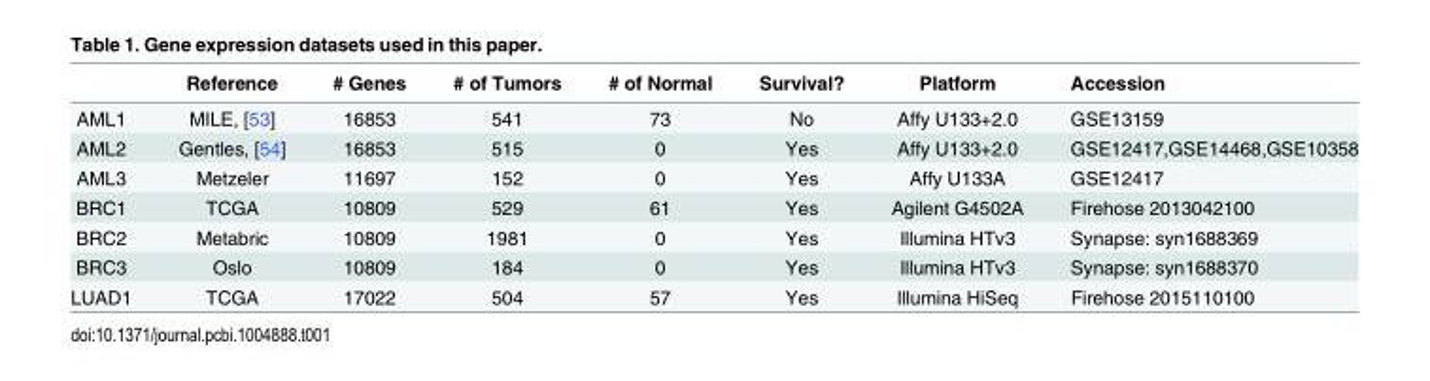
<table><thead><tr><td></td><td>Reference</td><td># Genes</td><td># of Tumors</td><td># of Normal</td><td>Survival?</td><td>Platform</td><td>Accession</td></tr></thead><tbody><tr><td>AML1</td><td>MILE, [53]</td><td>16853</td><td>541</td><td>73</td><td>No</td><td>Affy U133+2.0</td><td>GSE13159</td></tr><tr><td>AML2</td><td>Gentles, [54]</td><td>16853</td><td>515</td><td>0</td><td>Yes</td><td>Affy U133+2.0</td><td>GSE12417,GSE14468,GSE10358</td></tr><tr><td>AML3</td><td>Metzeler</td><td>11697</td><td>152</td><td>0</td><td>Yes</td><td>Affy U133A</td><td>GSE12417</td></tr><tr><td>BRC1</td><td>TCGA</td><td>10809</td><td>529</td><td>61</td><td>Yes</td><td>Agilent G4502A</td><td>Firehose 2013042100</td></tr><tr><td>BRC2</td><td>Metabric</td><td>10809</td><td>1981</td><td>0</td><td>Yes</td><td>Illumina HTv3</td><td>Synapse: syn1688369</td></tr><tr><td>BRC3</td><td>Oslo</td><td>10809</td><td>184</td><td>0</td><td>Yes</td><td>Illumina HTv3</td><td>Synapse: syn1688370</td></tr><tr><td>LUAD1</td><td>TCGA</td><td>17022</td><td>504</td><td>57</td><td>Yes</td><td>Illumina HiSeq</td><td>Firehose 2015110100</td></tr></tbody></table>